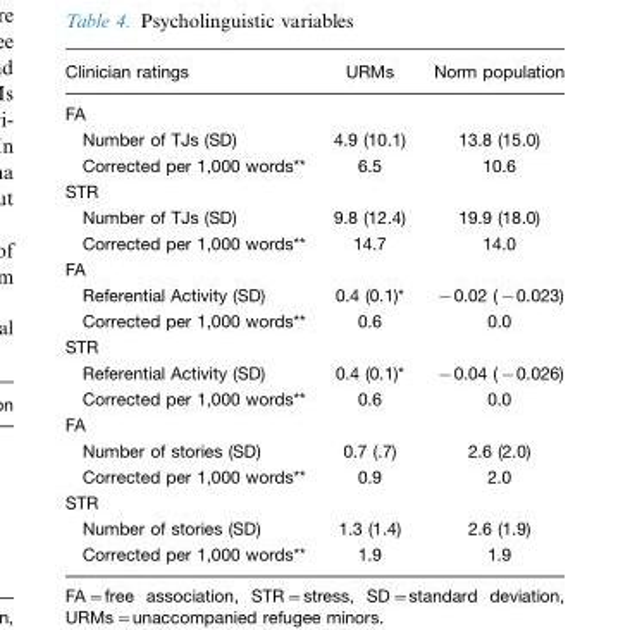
<table><thead><tr><td>Clinician ratings</td><td>URMs</td><td>Norm population</td></tr></thead><tbody><tr><td colspan="3">FA</td></tr><tr><td>Number of TJs (SD)</td><td>4.9 (10.1)</td><td>13.8 (15.0)</td></tr><tr><td>Corrected per 1,000 words**</td><td>6.5</td><td>10.6</td></tr><tr><td colspan="3">STR</td></tr><tr><td>Number of TJs (SD)</td><td>9.8 (12.4)</td><td>19.9 (18.0)</td></tr><tr><td>Corrected per 1,000 words**</td><td>14.7</td><td>14.0</td></tr><tr><td colspan="3">FA</td></tr><tr><td>Referential Activity (SD)</td><td>0.4 (0.1)*</td><td>−0.02 (−0.023)</td></tr><tr><td>Corrected per 1,000 words**</td><td>0.6</td><td>0.0</td></tr><tr><td colspan="3">STR</td></tr><tr><td>Referential Activity (SD)</td><td>0.4 (0.1)*</td><td>−0.04 (−0.026)</td></tr><tr><td>Corrected per 1,000 words**</td><td>0.6</td><td>0.0</td></tr><tr><td colspan="3">FA</td></tr><tr><td>Number of stories (SD)</td><td>0.7 (.7)</td><td>2.6 (2.0)</td></tr><tr><td>Corrected per 1,000 words**</td><td>0.9</td><td>2.0</td></tr><tr><td colspan="3">STR</td></tr><tr><td>Number of stories (SD)</td><td>1.3 (1.4)</td><td>2.6 (1.9)</td></tr><tr><td>Corrected per 1,000 words**</td><td>1.9</td><td>1.9</td></tr></tbody></table>